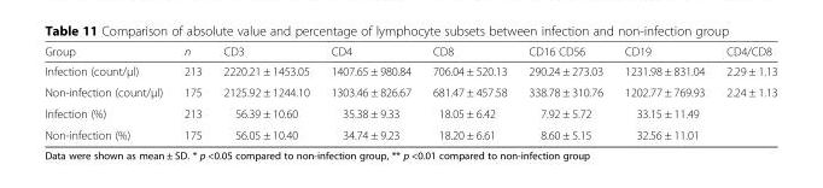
<table><thead><tr><td>Group</td><td>n</td><td>CD3</td><td>CD4</td><td>CD8</td><td>CD16 CD56</td><td>CD19</td><td>CD4/CD8</td></tr></thead><tbody><tr><td>Infection (count/μl)</td><td>213</td><td>2220.21 ± 1453.05</td><td>1407.65 ± 980.84</td><td>706.04 ± 520.13</td><td>290.24 ± 273.03</td><td>1231.98 ± 831.04</td><td>2.29 ± 1.13</td></tr><tr><td>Non-infection (count/μl)</td><td>175</td><td>2125.92 ± 1244.10</td><td>1303.46 ± 826.67</td><td>681.47 ± 457.58</td><td>338.78 ± 310.76</td><td>1202.77 ± 769.93</td><td>2.24 ± 1.13</td></tr><tr><td>Infection (%)</td><td>213</td><td>56.39 ± 10.60</td><td>35.38 ± 9.33</td><td>18.05 ± 6.42</td><td>7.92 ± 5.72</td><td>33.15 ± 11.49</td><td></td></tr><tr><td>Non-infection (%)</td><td>175</td><td>56.05 ± 10.40</td><td>34.74 ± 9.23</td><td>18.20 ± 6.61</td><td>8.60 ± 5.15</td><td>32.56 ± 11.01</td><td></td></tr></tbody></table>